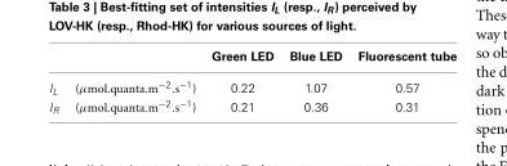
<table><thead><tr><td></td><td></td><td>Green LED</td><td>Blue LED</td><td>Fluorescent tube</td></tr></thead><tbody><tr><td>I<sub>L</sub></td><td>(μmol.quanta.m<sup>−2</sup>.s<sup>−1</sup>)</td><td>0.22</td><td>1.07</td><td>0.57</td></tr><tr><td>I<sub>R</sub></td><td>(μmol.quanta.m<sup>−2</sup>.s<sup>−1</sup>)</td><td>0.21</td><td>0.36</td><td>0.31</td></tr></tbody></table>